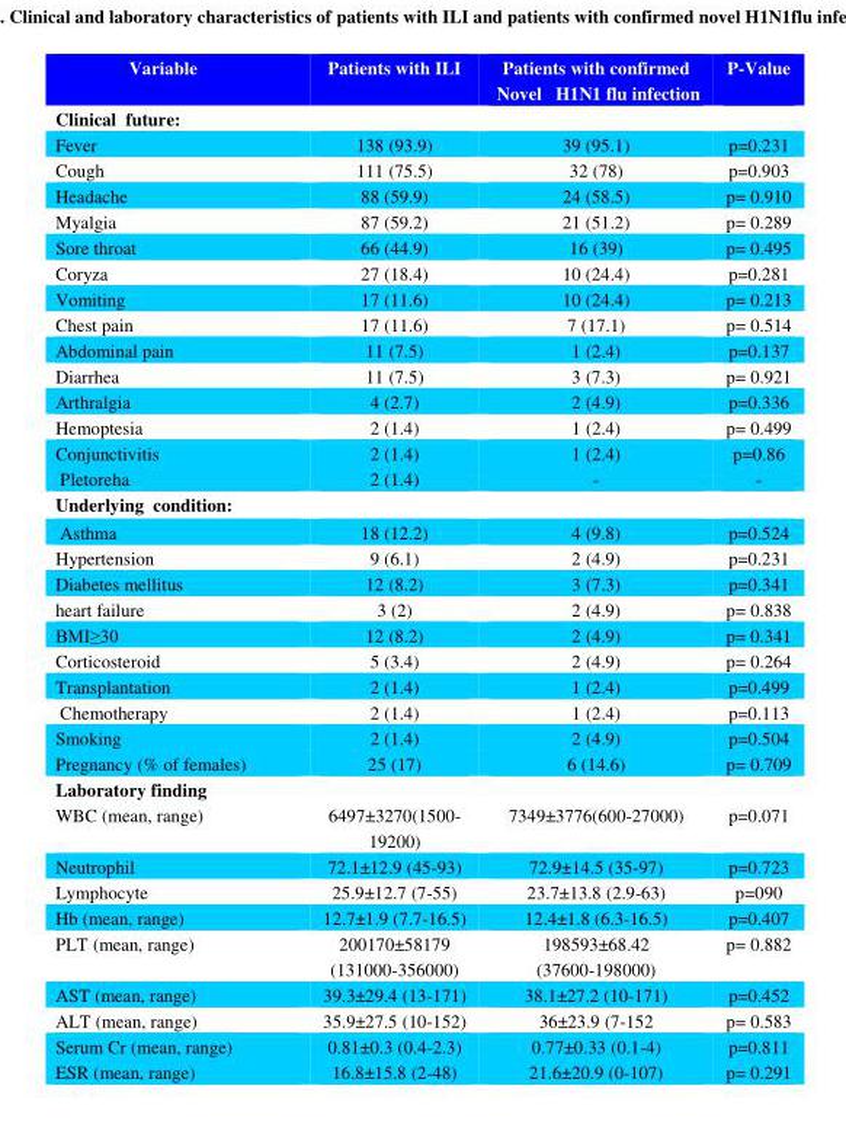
<table><thead><tr><td>Variable</td><td>Patients with ILI</td><td>Patients with confirmed Novel H1N1 flu infection</td><td>P-Value</td></tr></thead><tbody><tr><td colspan="4">Clinical future:</td></tr><tr><td>Fever</td><td>138 (93.9)</td><td>39 (95.1)</td><td>p=0.231</td></tr><tr><td>Cough</td><td>111 (75.5)</td><td>32 (78)</td><td>p=0.903</td></tr><tr><td>Headache</td><td>88 (59.9)</td><td>24 (58.5)</td><td>p= 0.910</td></tr><tr><td>Myalgia</td><td>87 (59.2)</td><td>21 (51.2)</td><td>p= 0.289</td></tr><tr><td>Sore throat</td><td>66 (44.9)</td><td>16 (39)</td><td>p= 0.495</td></tr><tr><td>Coryza</td><td>27 (18.4)</td><td>10 (24.4)</td><td>p=0.281</td></tr><tr><td>Vomiting</td><td>17 (11.6)</td><td>10 (24.4)</td><td>p= 0.213</td></tr><tr><td>Chest pain</td><td>17 (11.6)</td><td>7 (17.1)</td><td>p= 0.514</td></tr><tr><td>Abdominal pain</td><td>11 (7.5)</td><td>1 (2.4)</td><td>p=0.137</td></tr><tr><td>Diarrhea</td><td>11 (7.5)</td><td>3 (7.3)</td><td>p= 0.921</td></tr><tr><td>Arthralgia</td><td>4 (2.7)</td><td>2 (4.9)</td><td>p=0.336</td></tr><tr><td>Hemoptesia</td><td>2 (1.4)</td><td>1 (2.4)</td><td>p= 0.499</td></tr><tr><td>Conjunctivitis</td><td>2 (1.4)</td><td>1 (2.4)</td><td>p=0.86</td></tr><tr><td>Pletoreha</td><td>2 (1.4)</td><td>-</td><td>-</td></tr><tr><td colspan="4">Underlying condition:</td></tr><tr><td>Asthma</td><td>18 (12.2)</td><td>4 (9.8)</td><td>p=0.524</td></tr><tr><td>Hypertension</td><td>9 (6.1)</td><td>2 (4.9)</td><td>p=0.231</td></tr><tr><td>Diabetes mellitus</td><td>12 (8.2)</td><td>3 (7.3)</td><td>p=0.341</td></tr><tr><td>heart failure</td><td>3 (2)</td><td>2 (4.9)</td><td>p= 0.838</td></tr><tr><td>BMI≥30</td><td>12 (8.2)</td><td>2 (4.9)</td><td>p= 0.341</td></tr><tr><td>Corticosteroid</td><td>5 (3.4)</td><td>2 (4.9)</td><td>p= 0.264</td></tr><tr><td>Transplantation</td><td>2 (1.4)</td><td>1 (2.4)</td><td>p=0.499</td></tr><tr><td>Chemotherapy</td><td>2 (1.4)</td><td>1 (2.4)</td><td>p=0.113</td></tr><tr><td>Smoking</td><td>2 (1.4)</td><td>2 (4.9)</td><td>p=0.504</td></tr><tr><td>Pregnancy (% of females)</td><td>25 (17)</td><td>6 (14.6)</td><td>p= 0.709</td></tr><tr><td colspan="4">Laboratory finding</td></tr><tr><td>WBC (mean, range)</td><td>6497±3270(1500- 19200)</td><td>7349±3776(600-27000)</td><td>p=0.071</td></tr><tr><td>Neutrophil</td><td>72.1±12.9 (45-93)</td><td>72.9±14.5 (35-97)</td><td>p=0.723</td></tr><tr><td>Lymphocyte</td><td>25.9±12.7 (7-55)</td><td>23.7±13.8 (2.9-63)</td><td>p=090</td></tr><tr><td>Hb (mean, range)</td><td>12.7±1.9 (7.7-16.5)</td><td>12.4±1.8 (6.3-16.5)</td><td>p=0.407</td></tr><tr><td>PLT (mean, range)</td><td>200170±58179 (131000-356000)</td><td>198593±68.42 (37600-198000)</td><td>p= 0.882</td></tr><tr><td>AST (mean, range)</td><td>39.3±29.4 (13-171)</td><td>38.1±27.2 (10-171)</td><td>p=0.452</td></tr><tr><td>ALT (mean, range)</td><td>35.9±27.5 (10-152)</td><td>36±23.9 (7-152</td><td>p= 0.583</td></tr><tr><td>Serum Cr (mean, range)</td><td>0.81±0.3 (0.4-2.3)</td><td>0.77±0.33 (0.1-4)</td><td>p=0.811</td></tr><tr><td>ESR (mean, range)</td><td>16.8±15.8 (2-48)</td><td>21.6±20.9 (0-107)</td><td>p= 0.291</td></tr></tbody></table>